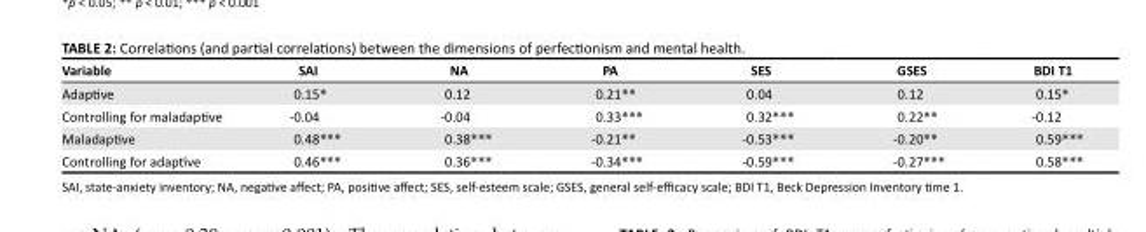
<table><thead><tr><td>Variable</td><td>SAI</td><td>NA</td><td>PA</td><td>SES</td><td>GSES</td><td>BDI T1</td></tr></thead><tbody><tr><td>Adaptive</td><td>0.15*</td><td>0.12</td><td>0.21**</td><td>0.04</td><td>0.12</td><td>0.15*</td></tr><tr><td>Controlling for maladaptive</td><td>-0.04</td><td>-0.04</td><td>0.33***</td><td>0.32***</td><td>0.22**</td><td>-0.12</td></tr><tr><td>Maladaptive</td><td>0.48***</td><td>0.38***</td><td>-0.21**</td><td>-0.53***</td><td>-0.20**</td><td>0.59***</td></tr><tr><td>Controlling for adaptive</td><td>0.46***</td><td>0.36***</td><td>-0.34***</td><td>-0.59***</td><td>-0.27***</td><td>0.58***</td></tr></tbody></table>